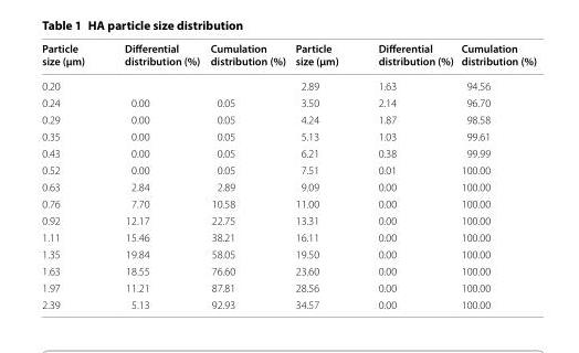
<table><thead><tr><td>Particle size (μm)</td><td>Differential distribution (%)</td><td>Cumulation distribution (%)</td><td>Particle size (μm)</td><td>Differential distribution (%)</td><td>Cumulation distribution (%)</td></tr></thead><tbody><tr><td>0.20</td><td></td><td></td><td>2.89</td><td>1.63</td><td>94.56</td></tr><tr><td>0.24</td><td>0.00</td><td>0.05</td><td>3.50</td><td>2.14</td><td>96.70</td></tr><tr><td>0.29</td><td>0.00</td><td>0.05</td><td>4.24</td><td>1.87</td><td>98.58</td></tr><tr><td>0.35</td><td>0.00</td><td>0.05</td><td>5.13</td><td>1.03</td><td>99.61</td></tr><tr><td>0.43</td><td>0.00</td><td>0.05</td><td>6.21</td><td>0.38</td><td>99.99</td></tr><tr><td>0.52</td><td>0.00</td><td>0.05</td><td>7.51</td><td>0.01</td><td>100.00</td></tr><tr><td>0.63</td><td>2.84</td><td>2.89</td><td>9.09</td><td>0.00</td><td>100.00</td></tr><tr><td>0.76</td><td>7.70</td><td>10.58</td><td>11.00</td><td>0.00</td><td>100.00</td></tr><tr><td>0.92</td><td>12.17</td><td>22.75</td><td>13.31</td><td>0.00</td><td>100.00</td></tr><tr><td>1.11</td><td>15.46</td><td>38.21</td><td>16.11</td><td>0.00</td><td>100.00</td></tr><tr><td>1.35</td><td>19.84</td><td>58.05</td><td>19.50</td><td>0.00</td><td>100.00</td></tr><tr><td>1.63</td><td>18.55</td><td>76.60</td><td>23.60</td><td>0.00</td><td>100.00</td></tr><tr><td>1.97</td><td>11.21</td><td>87.81</td><td>28.56</td><td>0.00</td><td>100.00</td></tr><tr><td>2.39</td><td>5.13</td><td>92.93</td><td>34.57</td><td>0.00</td><td>100.00</td></tr></tbody></table>